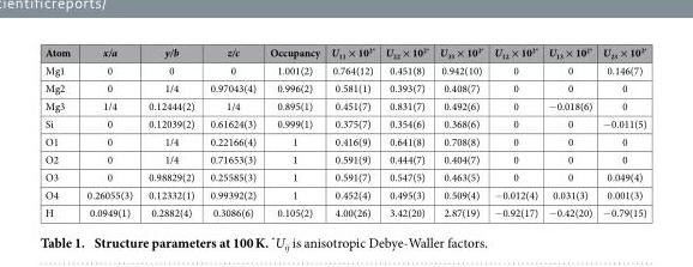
<table><thead><tr><td>Atom</td><td>x/a</td><td>y/b</td><td>z/c</td><td>Occupancy</td><td>U<sub>11</sub> × 10<sup>2</sup>*</td><td>U<sub>22</sub> × 10<sup>2</sup>*</td><td>U<sub>33</sub> × 10<sup>2</sup>*</td><td>U<sub>12</sub> × 10<sup>2</sup>*</td><td>U<sub>13</sub> × 10<sup>2</sup>*</td><td>U<sub>23</sub> × 10<sup>2</sup>*</td></tr></thead><tbody><tr><td>Mg1</td><td>0</td><td>0</td><td>0</td><td>1.001(2)</td><td>0.764(12)</td><td>0.451(8)</td><td>0.942(10)</td><td>0</td><td>0</td><td>0.146(7)</td></tr><tr><td>Mg2</td><td>0</td><td>1/4</td><td>0.97043(4)</td><td>0.996(2)</td><td>0.581(1)</td><td>0.393(7)</td><td>0.408(7)</td><td>0</td><td>0</td><td>0</td></tr><tr><td>Mg3</td><td>1/4</td><td>0.12444(2)</td><td>1/4</td><td>0.895(1)</td><td>0.451(7)</td><td>0.831(7)</td><td>0.492(6)</td><td>0</td><td>− 0.018(6)</td><td>0</td></tr><tr><td>Si</td><td>0</td><td>0.12039(2)</td><td>0.61624(3)</td><td>0.999(1)</td><td>0.375(7)</td><td>0.354(6)</td><td>0.368(6)</td><td>0</td><td>0</td><td>− 0.011(5)</td></tr><tr><td>O1</td><td>0</td><td>1/4</td><td>0.22166(4)</td><td>1</td><td>0.416(9)</td><td>0.641(8)</td><td>0.708(8)</td><td>0</td><td>0</td><td>0</td></tr><tr><td>O2</td><td>0</td><td>1/4</td><td>0.71653(3)</td><td>1</td><td>0.591(9)</td><td>0.444(7)</td><td>0.404(7)</td><td>0</td><td>0</td><td>0</td></tr><tr><td>O3</td><td>0</td><td>0.98829(2)</td><td>0.25585(3)</td><td>1</td><td>0.591(7)</td><td>0.547(5)</td><td>0.463(5)</td><td>0</td><td>0</td><td>0.049(4)</td></tr><tr><td>O4</td><td>0.26055(3)</td><td>0.12332(1)</td><td>0.99392(2)</td><td>1</td><td>0.452(4)</td><td>0.495(3)</td><td>0.509(4)</td><td>− 0.012(4)</td><td>0.031(3)</td><td>0.001(3)</td></tr><tr><td>H</td><td>0.0949(1)</td><td>0.2882(4)</td><td>0.3086(6)</td><td>0.105(2)</td><td>4.00(26)</td><td>3.42(20)</td><td>2.87(19)</td><td>− 0.92(17)</td><td>− 0.42(20)</td><td>− 0.79(15)</td></tr></tbody></table>